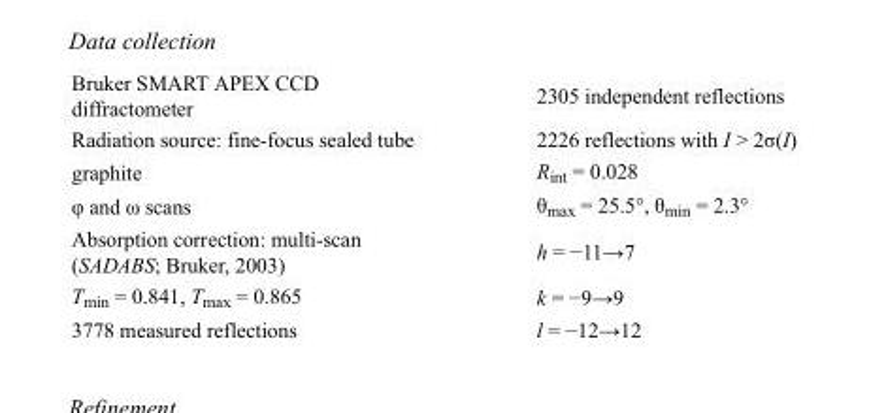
<table><tbody><tr><td>Bruker SMART APEX CCD diffractometer</td><td>2305 independent reflections</td></tr><tr><td>Radiation source: fine-focus sealed tube</td><td>2226 reflections with I &gt; 2σ(I)</td></tr><tr><td>graphite</td><td>R<sub>int</sub> = 0.028</td></tr><tr><td>φ and ω scans</td><td>θ<sub>max</sub> = 25.5°, θ<sub>min</sub> = 2.3°</td></tr><tr><td>Absorption correction: multi-scan (SADABS; Bruker, 2003)</td><td>h = −11→7</td></tr><tr><td>T<sub>min</sub> = 0.841, T<sub>max</sub> = 0.865</td><td>k = −9→9</td></tr><tr><td>3778 measured reflections</td><td>l = −12→12</td></tr></tbody></table>